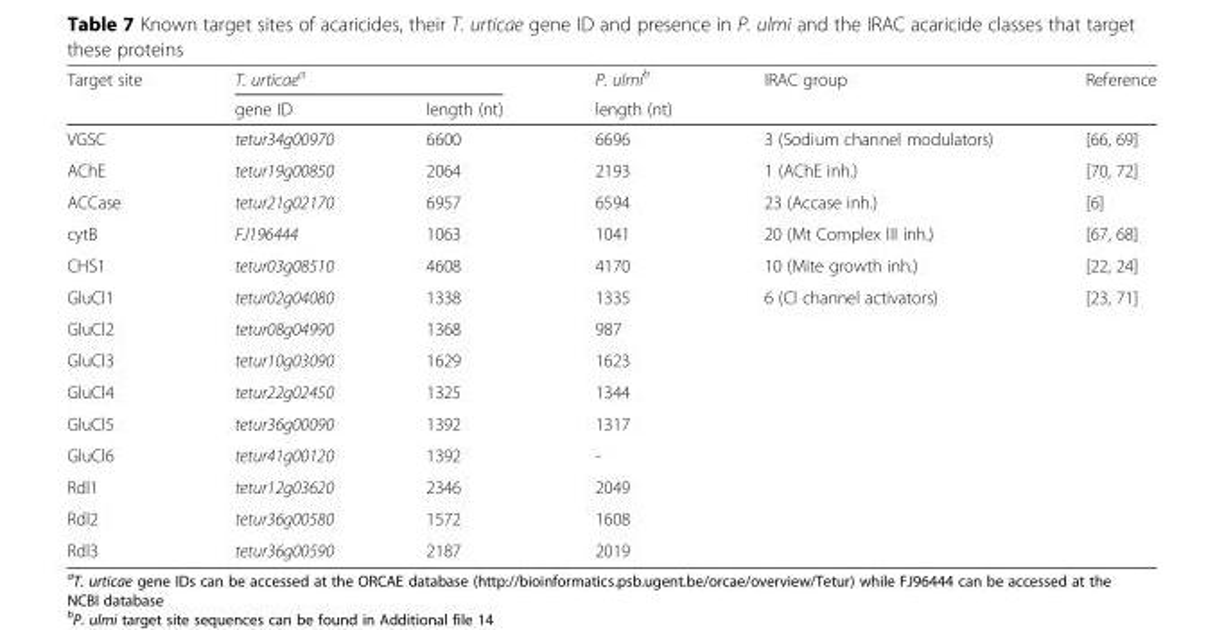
<table><thead><tr><td rowspan="2">Target site</td><td colspan="2">T. urticae<sup>a</sup></td><td rowspan="2">P. ulmi<sup>b</sup> length (nt)</td><td rowspan="2">IRAC group</td><td rowspan="2">Reference</td></tr><tr><td>gene ID</td><td>length (nt)</td></tr></thead><tbody><tr><td>VGSC</td><td>tetur34g00970</td><td>6600</td><td>6696</td><td>3 (Sodium channel modulators)</td><td>[66, 69]</td></tr><tr><td>AChE</td><td>tetur19g00850</td><td>2064</td><td>2193</td><td>1 (AChE inh.)</td><td>[70, 72]</td></tr><tr><td>ACCase</td><td>tetur21g02170</td><td>6957</td><td>6594</td><td>23 (Accase inh.)</td><td>[6]</td></tr><tr><td>cytB</td><td>FJ196444</td><td>1063</td><td>1041</td><td>20 (Mt Complex III inh.)</td><td>[67, 68]</td></tr><tr><td>CHS1</td><td>tetur03g08510</td><td>4608</td><td>4170</td><td>10 (Mite growth inh.)</td><td>[22, 24]</td></tr><tr><td>GluCl1</td><td>tetur02g04080</td><td>1338</td><td>1335</td><td rowspan="9">6 (Cl channel activators)</td><td rowspan="9">[23, 71]</td></tr><tr><td>GluCl2</td><td>tetur08g04990</td><td>1368</td><td>987</td></tr><tr><td>GluCl3</td><td>tetur10g03090</td><td>1629</td><td>1623</td></tr><tr><td>GluCl4</td><td>tetur22g02450</td><td>1325</td><td>1344</td></tr><tr><td>GluCl5</td><td>tetur36g00090</td><td>1392</td><td>1317</td></tr><tr><td>GluCl6</td><td>tetur41g00120</td><td>1392</td><td>-</td></tr><tr><td>Rdl1</td><td>tetur12g03620</td><td>2346</td><td>2049</td></tr><tr><td>Rdl2</td><td>tetur36g00580</td><td>1572</td><td>1608</td></tr><tr><td>Rdl3</td><td>tetur36g00590</td><td>2187</td><td>2019</td></tr></tbody></table>